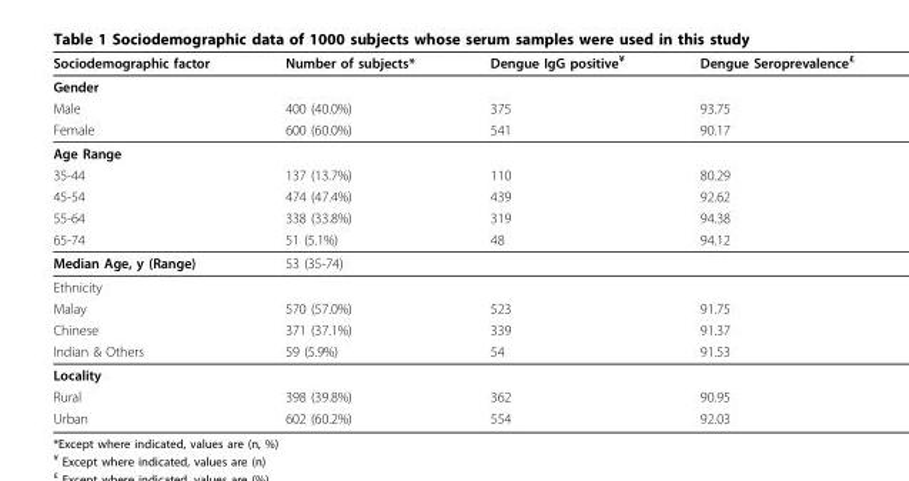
<table><thead><tr><td>Sociodemographic factor</td><td>Number of subjects*</td><td>Dengue IgG positive<sup>¥</sup></td><td>Dengue Seroprevalence<sup>£</sup></td></tr></thead><tbody><tr><td colspan="4">Gender</td></tr><tr><td>Male</td><td>400 (40.0%)</td><td>375</td><td>93.75</td></tr><tr><td>Female</td><td>600 (60.0%)</td><td>541</td><td>90.17</td></tr><tr><td colspan="4">Age Range</td></tr><tr><td>35-44</td><td>137 (13.7%)</td><td>110</td><td>80.29</td></tr><tr><td>45-54</td><td>474 (47.4%)</td><td>439</td><td>92.62</td></tr><tr><td>55-64</td><td>338 (33.8%)</td><td>319</td><td>94.38</td></tr><tr><td>65-74</td><td>51 (5.1%)</td><td>48</td><td>94.12</td></tr><tr><td>Median Age, y (Range)</td><td>53 (35-74)</td><td></td><td></td></tr><tr><td colspan="4">Ethnicity</td></tr><tr><td>Malay</td><td>570 (57.0%)</td><td>523</td><td>91.75</td></tr><tr><td>Chinese</td><td>371 (37.1%)</td><td>339</td><td>91.37</td></tr><tr><td>Indian &amp; Others</td><td>59 (5.9%)</td><td>54</td><td>91.53</td></tr><tr><td colspan="4">Locality</td></tr><tr><td>Rural</td><td>398 (39.8%)</td><td>362</td><td>90.95</td></tr><tr><td>Urban</td><td>602 (60.2%)</td><td>554</td><td>92.03</td></tr></tbody></table>